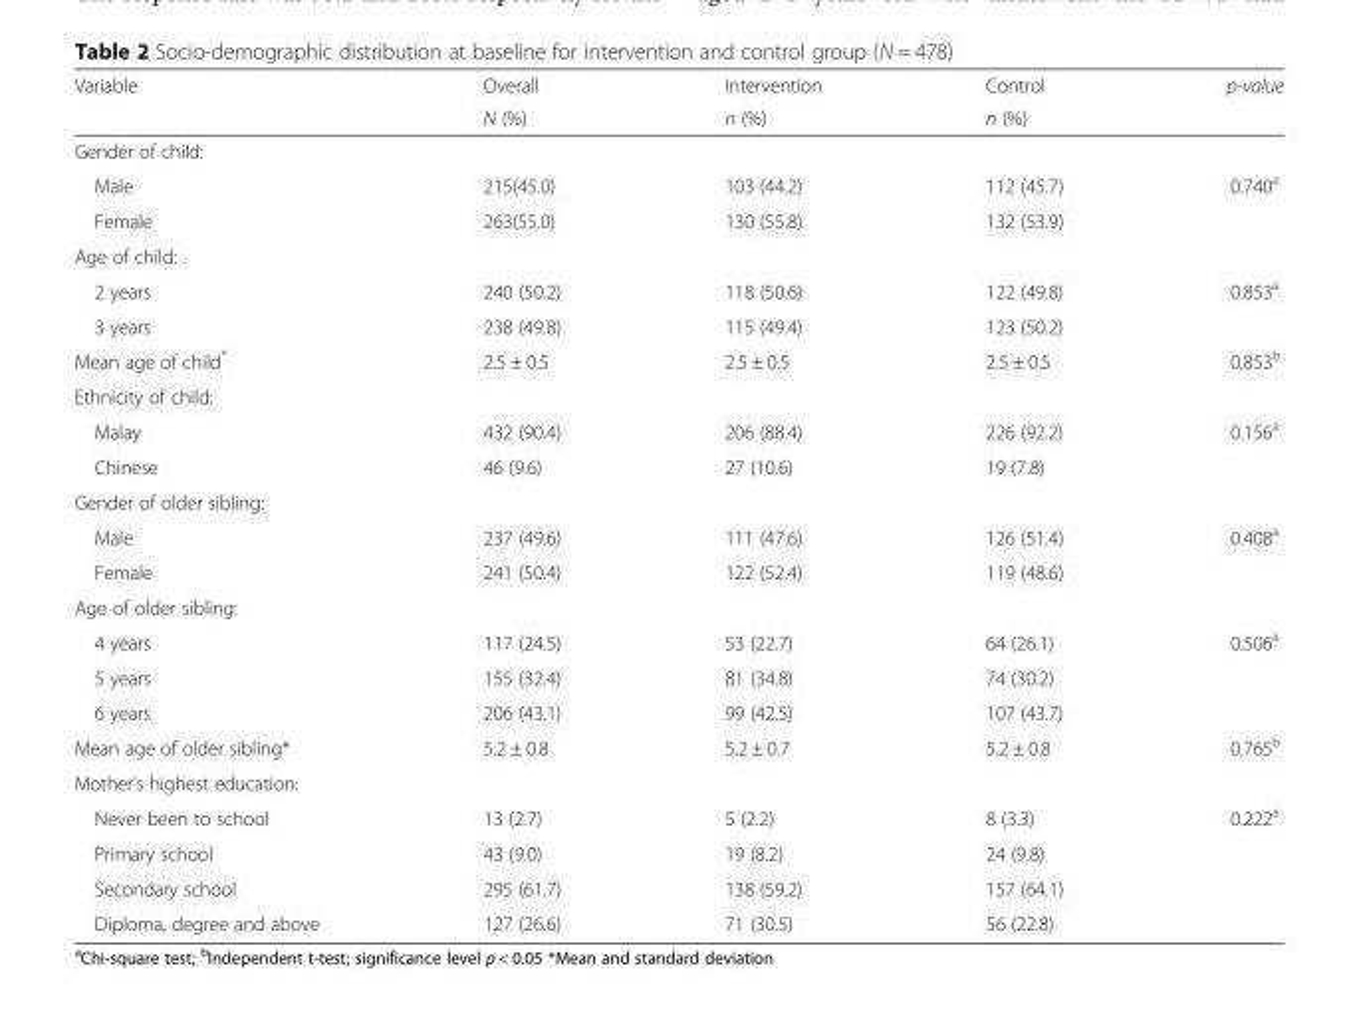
<table><thead><tr><td rowspan="2">Variable</td><td rowspan="2">Overall N (%)</td><td rowspan="2">Intervention n (%)</td><td rowspan="2">Control n (%)</td><td rowspan="2">p-value</td></tr><tr></tr></thead><tbody><tr><td colspan="5">Gender of child:</td></tr><tr><td>Male</td><td>215(45.0)</td><td>103 (44.2)</td><td>112 (45.7)</td><td>0.740<sup>a</sup></td></tr><tr><td>Female</td><td>263(55.0)</td><td>130 (55.8)</td><td>132 (53.9)</td><td></td></tr><tr><td colspan="5">Age of child:</td></tr><tr><td>2 years</td><td>240 (50.2)</td><td>118 (50.6)</td><td>122 (49.8)</td><td>0.853<sup>a</sup></td></tr><tr><td>3 years</td><td>238 (49.8)</td><td>115 (49.4)</td><td>123 (50.2)</td><td></td></tr><tr><td>Mean age of child*</td><td>2.5 ± 0.5</td><td>2.5 ± 0.5</td><td>2.5 ± 0.5</td><td>0.853<sup>b</sup></td></tr><tr><td colspan="5">Ethnicity of child:</td></tr><tr><td>Malay</td><td>432 (90.4)</td><td>206 (88.4)</td><td>226 (92.2)</td><td>0.156<sup>a</sup></td></tr><tr><td>Chinese</td><td>46 (9.6)</td><td>27 (10.6)</td><td>19 (7.8)</td><td></td></tr><tr><td colspan="5">Gender of older sibling:</td></tr><tr><td>Male</td><td>237 (49.6)</td><td>111 (47.6)</td><td>126 (51.4)</td><td>0.408<sup>a</sup></td></tr><tr><td>Female</td><td>241 (50.4)</td><td>122 (52.4)</td><td>119 (48.6)</td><td></td></tr><tr><td colspan="5">Age of older sibling:</td></tr><tr><td>4 years</td><td>117 (24.5)</td><td>53 (22.7)</td><td>64 (26.1)</td><td>0.506<sup>a</sup></td></tr><tr><td>5 years</td><td>155 (32.4)</td><td>81 (34.8)</td><td>74 (30.2)</td><td></td></tr><tr><td>6 years</td><td>206 (43.1)</td><td>99 (42.5)</td><td>107 (43.7)</td><td></td></tr><tr><td>Mean age of older sibling*</td><td>5.2 ± 0.8</td><td>5.2 ± 0.7</td><td>5.2 ± 0.8</td><td>0.765<sup>b</sup></td></tr><tr><td colspan="5">Mother’s highest education:</td></tr><tr><td>Never been to school</td><td>13 (2.7)</td><td>5 (2.2)</td><td>8 (3.3)</td><td>0.222<sup>a</sup></td></tr><tr><td>Primary school</td><td>43 (9.0)</td><td>19 (8.2)</td><td>24 (9.8)</td><td></td></tr><tr><td>Secondary school</td><td>295 (61.7)</td><td>138 (59.2)</td><td>157 (64.1)</td><td></td></tr><tr><td>Diploma, degree and above</td><td>127 (26.6)</td><td>71 (30.5)</td><td>56 (22.8)</td><td></td></tr></tbody></table>